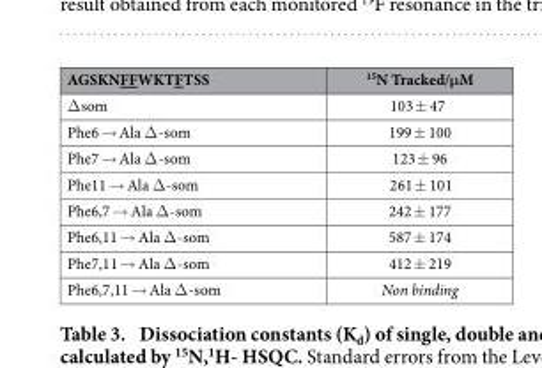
<table><thead><tr><td>AGSKNFFWKTFTSS</td><td><sup>15</sup>N Tracked/μM</td></tr></thead><tbody><tr><td>Δ som</td><td>103 ± 47</td></tr><tr><td>Phe6 → Ala Δ -som</td><td>199 ± 100</td></tr><tr><td>Phe7 → Ala Δ -som</td><td>123 ± 96</td></tr><tr><td>Phe11 → Ala Δ -som</td><td>261 ± 101</td></tr><tr><td>Phe6,7 → Ala Δ -som</td><td>242 ± 177</td></tr><tr><td>Phe6,11 → Ala Δ -som</td><td>587 ± 174</td></tr><tr><td>Phe7,11 → Ala Δ -som</td><td>412 ± 219</td></tr><tr><td>Phe6,7,11 → Ala Δ -som</td><td>Non binding</td></tr></tbody></table>